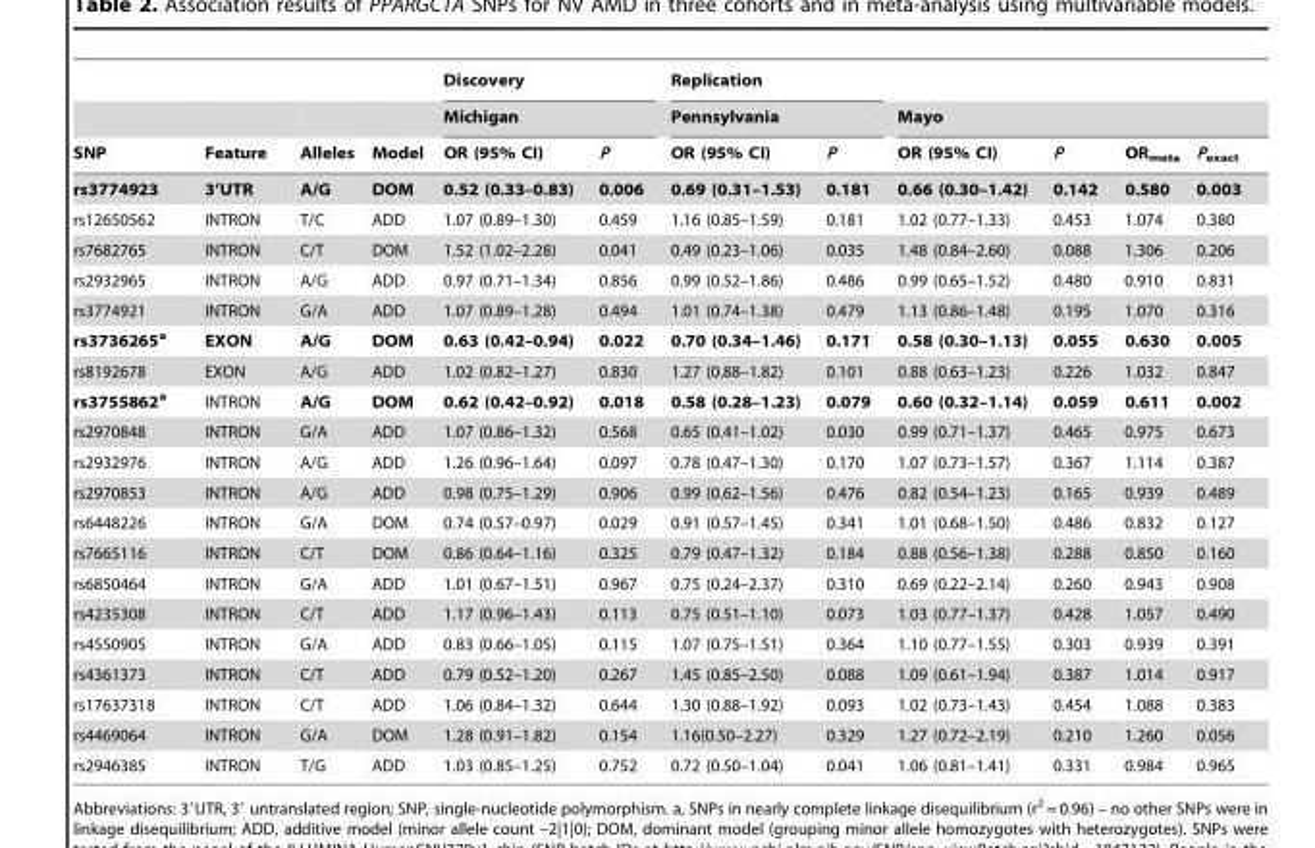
<table><thead><tr><td rowspan="3">SNP</td><td rowspan="3">Feature</td><td rowspan="3">Alleles</td><td rowspan="3">Model</td><td rowspan="2" colspan="2">Discovery Michigan</td><td rowspan="2" colspan="2">Replication Pennsylvania</td><td></td><td></td><td></td><td></td></tr><tr><td colspan="4">Mayo</td></tr><tr><td>OR (95% CI)</td><td>P</td><td>OR (95% CI)</td><td>P</td><td>OR (95% CI)</td><td>P</td><td>OR<sub>meta</sub></td><td>P<sub>exact</sub></td></tr></thead><tbody><tr><td>rs3774923</td><td>3’UTR</td><td>A/G</td><td>DOM</td><td>0.52 (0.33–0.83)</td><td>0.006</td><td>0.69 (0.31–1.53)</td><td>0.181</td><td>0.66 (0.30–1.42)</td><td>0.142</td><td>0.580</td><td>0.003</td></tr><tr><td>rs12650562</td><td>INTRON</td><td>T/C</td><td>ADD</td><td>1.07 (0.89–1.30)</td><td>0.459</td><td>1.16 (0.85–1.59)</td><td>0.181</td><td>1.02 (0.77–1.33)</td><td>0.453</td><td>1.074</td><td>0.380</td></tr><tr><td>rs7682765</td><td>INTRON</td><td>C/T</td><td>DOM</td><td>1.52 (1.02–2.28)</td><td>0.041</td><td>0.49 (0.23–1.06)</td><td>0.035</td><td>1.48 (0.84–2.60)</td><td>0.088</td><td>1.306</td><td>0.206</td></tr><tr><td>rs2932965</td><td>INTRON</td><td>A/G</td><td>ADD</td><td>0.97 (0.71–1.34)</td><td>0.856</td><td>0.99 (0.52–1.86)</td><td>0.486</td><td>0.99 (0.65–1.52)</td><td>0.480</td><td>0.910</td><td>0.831</td></tr><tr><td>rs3774921</td><td>INTRON</td><td>G/A</td><td>ADD</td><td>1.07 (0.89–1.28)</td><td>0.494</td><td>1.01 (0.74–1.38)</td><td>0.479</td><td>1.13 (0.86–1.48)</td><td>0.195</td><td>1.070</td><td>0.316</td></tr><tr><td>rs3736265<sup>a</sup></td><td>EXON</td><td>A/G</td><td>DOM</td><td>0.63 (0.42–0.94)</td><td>0.022</td><td>0.70 (0.34–1.46)</td><td>0.171</td><td>0.58 (0.30–1.13)</td><td>0.055</td><td>0.630</td><td>0.005</td></tr><tr><td>rs8192678</td><td>EXON</td><td>A/G</td><td>ADD</td><td>1.02 (0.82–1.27)</td><td>0.830</td><td>1.27 (0.88–1.82)</td><td>0.101</td><td>0.88 (0.63–1.23)</td><td>0.226</td><td>1.032</td><td>0.847</td></tr><tr><td>rs3755862<sup>a</sup></td><td>INTRON</td><td>A/G</td><td>DOM</td><td>0.62 (0.42–0.92)</td><td>0.018</td><td>0.58 (0.28–1.23)</td><td>0.079</td><td>0.60 (0.32–1.14)</td><td>0.059</td><td>0.611</td><td>0.002</td></tr><tr><td>rs2970848</td><td>INTRON</td><td>G/A</td><td>ADD</td><td>1.07 (0.86–1.32)</td><td>0.568</td><td>0.65 (0.41–1.02)</td><td>0.030</td><td>0.99 (0.71–1.37)</td><td>0.465</td><td>0.975</td><td>0.673</td></tr><tr><td>rs2932976</td><td>INTRON</td><td>A/G</td><td>ADD</td><td>1.26 (0.96–1.64)</td><td>0.097</td><td>0.78 (0.47–1.30)</td><td>0.170</td><td>1.07 (0.73–1.57)</td><td>0.367</td><td>1.114</td><td>0.387</td></tr><tr><td>rs2970853</td><td>INTRON</td><td>A/G</td><td>ADD</td><td>0.98 (0.75–1.29)</td><td>0.906</td><td>0.99 (0.62–1.56)</td><td>0.476</td><td>0.82 (0.54–1.23)</td><td>0.165</td><td>0.939</td><td>0.489</td></tr><tr><td>rs6448226</td><td>INTRON</td><td>G/A</td><td>DOM</td><td>0.74 (0.57–0.97)</td><td>0.029</td><td>0.91 (0.57–1.45)</td><td>0.341</td><td>1.01 (0.68–1.50)</td><td>0.486</td><td>0.832</td><td>0.127</td></tr><tr><td>rs7665116</td><td>INTRON</td><td>C/T</td><td>DOM</td><td>0.86 (0.64–1.16)</td><td>0.325</td><td>0.79 (0.47–1.32)</td><td>0.184</td><td>0.88 (0.56–1.38)</td><td>0.288</td><td>0.850</td><td>0.160</td></tr><tr><td>rs6850464</td><td>INTRON</td><td>G/A</td><td>ADD</td><td>1.01 (0.67–1.51)</td><td>0.967</td><td>0.75 (0.24–2.37)</td><td>0.310</td><td>0.69 (0.22–2.14)</td><td>0.260</td><td>0.943</td><td>0.908</td></tr><tr><td>rs4235308</td><td>INTRON</td><td>C/T</td><td>ADD</td><td>1.17 (0.96–1.43)</td><td>0.113</td><td>0.75 (0.51–1.10)</td><td>0.073</td><td>1.03 (0.77–1.37)</td><td>0.428</td><td>1.057</td><td>0.490</td></tr><tr><td>rs4550905</td><td>INTRON</td><td>G/A</td><td>ADD</td><td>0.83 (0.66–1.05)</td><td>0.115</td><td>1.07 (0.75–1.51)</td><td>0.364</td><td>1.10 (0.77–1.55)</td><td>0.303</td><td>0.939</td><td>0.391</td></tr><tr><td>rs4361373</td><td>INTRON</td><td>C/T</td><td>ADD</td><td>0.79 (0.52–1.20)</td><td>0.267</td><td>1.45 (0.85–2.50)</td><td>0.088</td><td>1.09 (0.61–1.94)</td><td>0.387</td><td>1.014</td><td>0.917</td></tr><tr><td>rs17637318</td><td>INTRON</td><td>C/T</td><td>ADD</td><td>1.06 (0.84–1.32)</td><td>0.644</td><td>1.30 (0.88–1.92)</td><td>0.093</td><td>1.02 (0.73–1.43)</td><td>0.454</td><td>1.088</td><td>0.383</td></tr><tr><td>rs4469064</td><td>INTRON</td><td>G/A</td><td>DOM</td><td>1.28 (0.91–1.82)</td><td>0.154</td><td>1.16(0.50–2.27)</td><td>0.329</td><td>1.27 (0.72–2.19)</td><td>0.210</td><td>1.260</td><td>0.056</td></tr><tr><td>rs2946385</td><td>INTRON</td><td>T/G</td><td>ADD</td><td>1.03 (0.85–1.25)</td><td>0.752</td><td>0.72 (0.50–1.04)</td><td>0.041</td><td>1.06 (0.81–1.41)</td><td>0.331</td><td>0.984</td><td>0.965</td></tr></tbody></table>